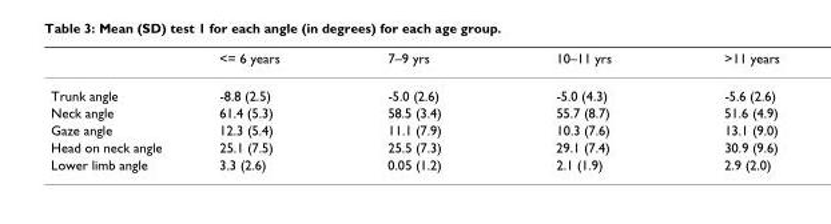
<table><thead><tr><td></td><td>&lt;= 6 years</td><td>7–9 yrs</td><td>10–11 yrs</td><td>&gt;11 years</td></tr></thead><tbody><tr><td>Trunk angle</td><td>-8.8 (2.5)</td><td>-5.0 (2.6)</td><td>-5.0 (4.3)</td><td>-5.6 (2.6)</td></tr><tr><td>Neck angle</td><td>61.4 (5.3)</td><td>58.5 (3.4)</td><td>55.7 (8.7)</td><td>51.6 (4.9)</td></tr><tr><td>Gaze angle</td><td>12.3 (5.4)</td><td>11.1 (7.9)</td><td>10.3 (7.6)</td><td>13.1 (9.0)</td></tr><tr><td>Head on neck angle</td><td>25.1 (7.5)</td><td>25.5 (7.3)</td><td>29.1 (7.4)</td><td>30.9 (9.6)</td></tr><tr><td>Lower limb angle</td><td>3.3 (2.6)</td><td>0.05 (1.2)</td><td>2.1 (1.9)</td><td>2.9 (2.0)</td></tr></tbody></table>